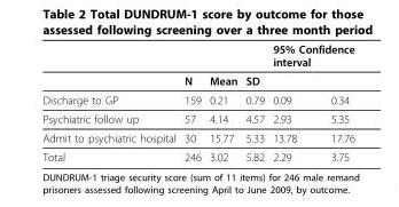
<table><thead><tr><td rowspan="2"></td><td rowspan="2">N</td><td rowspan="2">Mean</td><td rowspan="2">SD</td><td colspan="2">95% Confidence interval</td></tr><tr><td></td><td></td></tr></thead><tbody><tr><td>Discharge to GP</td><td>159</td><td>0.21</td><td>0.79</td><td>0.09</td><td>0.34</td></tr><tr><td>Psychiatric follow up</td><td>57</td><td>4.14</td><td>4.57</td><td>2.93</td><td>5.35</td></tr><tr><td>Admit to psychiatric hospital</td><td>30</td><td>15.77</td><td>5.33</td><td>13.78</td><td>17.76</td></tr><tr><td>Total</td><td>246</td><td>3.02</td><td>5.82</td><td>2.29</td><td>3.75</td></tr></tbody></table>